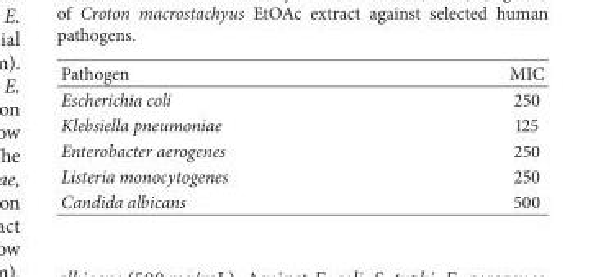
<table><thead><tr><td>Pathogen</td><td>MIC</td></tr></thead><tbody><tr><td>Escherichia coli</td><td>250</td></tr><tr><td>Klebsiella pneumoniae</td><td>125</td></tr><tr><td>Enterobacter aerogenes</td><td>250</td></tr><tr><td>Listeria monocytogenes</td><td>250</td></tr><tr><td>Candida albicans</td><td>500</td></tr></tbody></table>